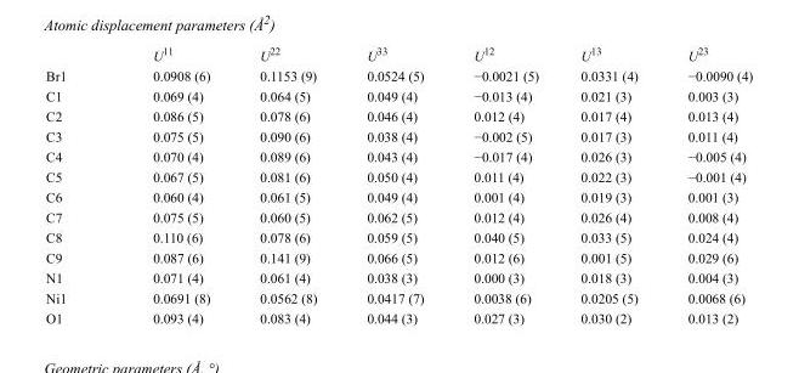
<table><thead><tr><td></td><td>U<sup>11</sup></td><td>U<sup>22</sup></td><td>U<sup>33</sup></td><td>U<sup>12</sup></td><td>U<sup>13</sup></td><td>U<sup>23</sup></td></tr></thead><tbody><tr><td>Br1</td><td>0.0908 (6)</td><td>0.1153 (9)</td><td>0.0524 (5)</td><td>−0.0021 (5)</td><td>0.0331 (4)</td><td>−0.0090 (4)</td></tr><tr><td>C1</td><td>0.069 (4)</td><td>0.064 (5)</td><td>0.049 (4)</td><td>−0.013 (4)</td><td>0.021 (3)</td><td>0.003 (3)</td></tr><tr><td>C2</td><td>0.086 (5)</td><td>0.078 (6)</td><td>0.046 (4)</td><td>0.012 (4)</td><td>0.017 (4)</td><td>0.013 (4)</td></tr><tr><td>C3</td><td>0.075 (5)</td><td>0.090 (6)</td><td>0.038 (4)</td><td>−0.002 (5)</td><td>0.017 (3)</td><td>0.011 (4)</td></tr><tr><td>C4</td><td>0.070 (4)</td><td>0.089 (6)</td><td>0.043 (4)</td><td>−0.017 (4)</td><td>0.026 (3)</td><td>−0.005 (4)</td></tr><tr><td>C5</td><td>0.067 (5)</td><td>0.081 (6)</td><td>0.050 (4)</td><td>0.011 (4)</td><td>0.022 (3)</td><td>−0.001 (4)</td></tr><tr><td>C6</td><td>0.060 (4)</td><td>0.061 (5)</td><td>0.049 (4)</td><td>0.001 (4)</td><td>0.019 (3)</td><td>0.001 (3)</td></tr><tr><td>C7</td><td>0.075 (5)</td><td>0.060 (5)</td><td>0.062 (5)</td><td>0.012 (4)</td><td>0.026 (4)</td><td>0.008 (4)</td></tr><tr><td>C8</td><td>0.110 (6)</td><td>0.078 (6)</td><td>0.059 (5)</td><td>0.040 (5)</td><td>0.033 (5)</td><td>0.024 (4)</td></tr><tr><td>C9</td><td>0.087 (6)</td><td>0.141 (9)</td><td>0.066 (5)</td><td>0.012 (6)</td><td>0.001 (5)</td><td>0.029 (6)</td></tr><tr><td>N1</td><td>0.071 (4)</td><td>0.061 (4)</td><td>0.038 (3)</td><td>0.000 (3)</td><td>0.018 (3)</td><td>0.004 (3)</td></tr><tr><td>Ni1</td><td>0.0691 (8)</td><td>0.0562 (8)</td><td>0.0417 (7)</td><td>0.0038 (6)</td><td>0.0205 (5)</td><td>0.0068 (6)</td></tr><tr><td>O1</td><td>0.093 (4)</td><td>0.083 (4)</td><td>0.044 (3)</td><td>0.027 (3)</td><td>0.030 (2)</td><td>0.013 (2)</td></tr></tbody></table>